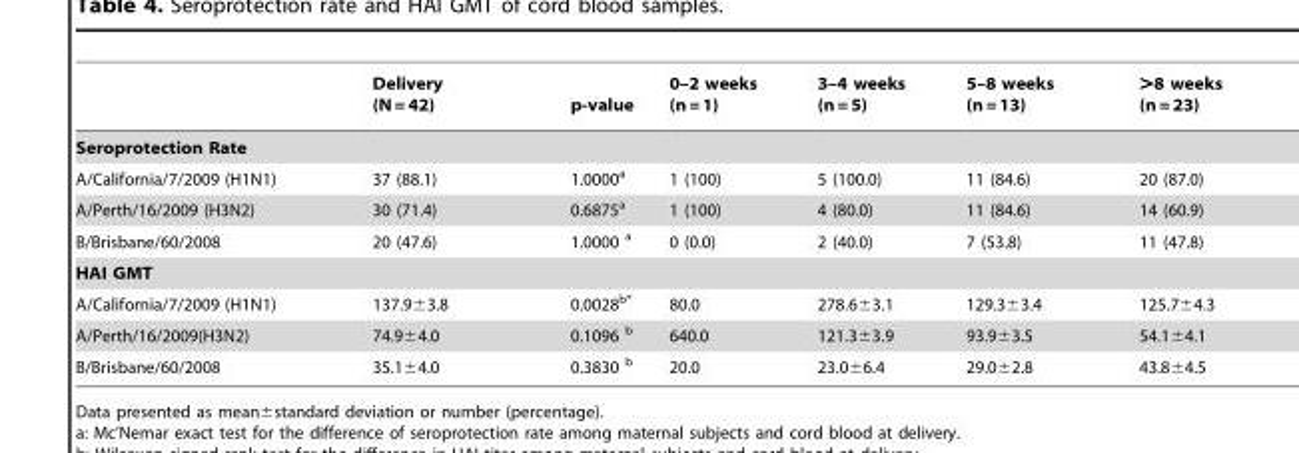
<table><thead><tr><td></td><td>Delivery (N = 42)</td><td>p-value</td><td>0–2 weeks (n = 1)</td><td>3–4 weeks (n = 5)</td><td>5–8 weeks (n = 13)</td><td>&gt;8 weeks (n = 23)</td></tr></thead><tbody><tr><td colspan="7">Seroprotection Rate</td></tr><tr><td>A/California/7/2009 (H1N1)</td><td>37 (88.1)</td><td>1.0000<sup>a</sup></td><td>1 (100)</td><td>5 (100.0)</td><td>11 (84.6)</td><td>20 (87.0)</td></tr><tr><td>A/Perth/16/2009 (H3N2)</td><td>30 (71.4)</td><td>0.6875<sup>a</sup></td><td>1 (100)</td><td>4 (80.0)</td><td>11 (84.6)</td><td>14 (60.9)</td></tr><tr><td>B/Brisbane/60/2008</td><td>20 (47.6)</td><td>1.0000 <sup>a</sup></td><td>0 (0.0)</td><td>2 (40.0)</td><td>7 (53.8)</td><td>11 (47.8)</td></tr><tr><td colspan="7">HAI GMT</td></tr><tr><td>A/California/7/2009 (H1N1)</td><td>137.9±3.8</td><td>0.0028<sup>b</sup>*</td><td>80.0</td><td>278.6±3.1</td><td>129.3±3.4</td><td>125.7±4.3</td></tr><tr><td>A/Perth/16/2009(H3N2)</td><td>74.9±4.0</td><td>0.1096 <sup>b</sup></td><td>640.0</td><td>121.3±3.9</td><td>93.9±3.5</td><td>54.1±4.1</td></tr><tr><td>B/Brisbane/60/2008</td><td>35.1±4.0</td><td>0.3830 <sup>b</sup></td><td>20.0</td><td>23.0±6.4</td><td>29.0±2.8</td><td>43.8±4.5</td></tr></tbody></table>